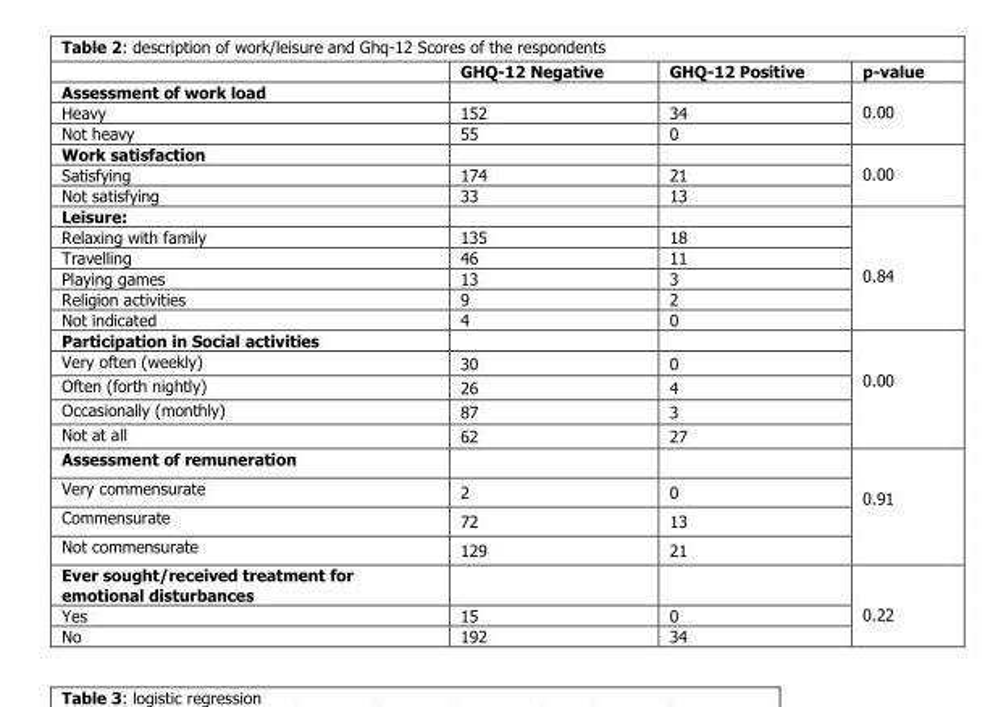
<table><thead><tr><td></td><td>GHQ-12 Negative</td><td>GHQ-12 Positive</td><td>p-value</td></tr></thead><tbody><tr><td colspan="3">Assessment of work load</td><td rowspan="3">0.00</td></tr><tr><td>Heavy</td><td>152</td><td>34</td></tr><tr><td>Not heavy</td><td>55</td><td>0</td></tr><tr><td colspan="3">Work satisfaction</td><td rowspan="3">0.00</td></tr><tr><td>Satisfying</td><td>174</td><td>21</td></tr><tr><td>Not satisfying</td><td>33</td><td>13</td></tr><tr><td colspan="3">Leisure:</td><td rowspan="6">0.84</td></tr><tr><td>Relaxing with family</td><td>135</td><td>18</td></tr><tr><td>Travelling</td><td>46</td><td>11</td></tr><tr><td>Playing games</td><td>13</td><td>3</td></tr><tr><td>Religion activities</td><td>9</td><td>2</td></tr><tr><td>Not indicated</td><td>4</td><td>0</td></tr><tr><td colspan="3">Participation in Social activities</td><td rowspan="5">0.00</td></tr><tr><td>Very often (weekly)</td><td>30</td><td>0</td></tr><tr><td>Often (forth nightly)</td><td>26</td><td>4</td></tr><tr><td>Occasionally (monthly)</td><td>87</td><td>3</td></tr><tr><td>Not at all</td><td>62</td><td>27</td></tr><tr><td colspan="3">Assessment of remuneration</td><td rowspan="4">0.91</td></tr><tr><td>Very commensurate</td><td>2</td><td>0</td></tr><tr><td>Commensurate</td><td>72</td><td>13</td></tr><tr><td>Not commensurate</td><td>129</td><td>21</td></tr><tr><td colspan="3">Ever sought/received treatment for emotional disturbances</td><td rowspan="3">0.22</td></tr><tr><td>Yes</td><td>15</td><td>0</td></tr><tr><td>No</td><td>192</td><td>34</td></tr></tbody></table>